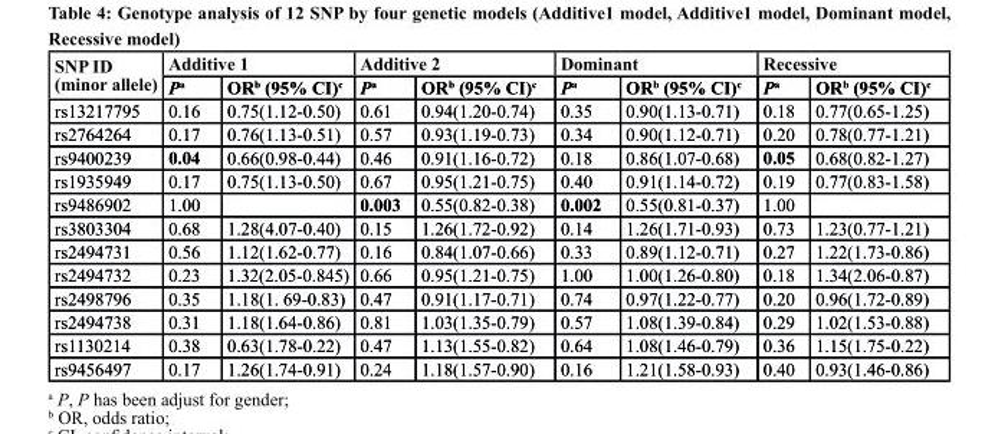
<table><thead><tr><td rowspan="2">sNP ID (minor allele)</td><td colspan="2">Additive 1</td><td colspan="2">Additive 2</td><td colspan="2">Dominant</td><td colspan="2">recessive</td></tr><tr><td>P<sup>a</sup></td><td>Or<sup>b</sup> (95% cI)<sup>c</sup></td><td>P<sup>a</sup></td><td>Or<sup>b</sup> (95% cI)<sup>c</sup></td><td>P<sup>a</sup></td><td>Or<sup>b</sup> (95% cI)<sup>c</sup></td><td>P<sup>a</sup></td><td>Or<sup>b</sup> (95% cI)<sup>c</sup></td></tr></thead><tbody><tr><td>rs13217795</td><td>0.16</td><td>0.75(1.12-0.50)</td><td>0.61</td><td>0.94(1.20-0.74)</td><td>0.35</td><td>0.90(1.13-0.71)</td><td>0.18</td><td>0.77(0.65-1.25)</td></tr><tr><td>rs2764264</td><td>0.17</td><td>0.76(1.13-0.51)</td><td>0.57</td><td>0.93(1.19-0.73)</td><td>0.34</td><td>0.90(1.12-0.71)</td><td>0.20</td><td>0.78(0.77-1.21)</td></tr><tr><td>rs9400239</td><td>0.04</td><td>0.66(0.98-0.44)</td><td>0.46</td><td>0.91(1.16-0.72)</td><td>0.18</td><td>0.86(1.07-0.68)</td><td>0.05</td><td>0.68(0.82-1.27)</td></tr><tr><td>rs1935949</td><td>0.17</td><td>0.75(1.13-0.50)</td><td>0.67</td><td>0.95(1.21-0.75)</td><td>0.40</td><td>0.91(1.14-0.72)</td><td>0.19</td><td>0.77(0.83-1.58)</td></tr><tr><td>rs9486902</td><td>1.00</td><td></td><td>0.003</td><td>0.55(0.82-0.38)</td><td>0.002</td><td>0.55(0.81-0.37)</td><td>1.00</td><td></td></tr><tr><td>rs3803304</td><td>0.68</td><td>1.28(4.07-0.40)</td><td>0.15</td><td>1.26(1.72-0.92)</td><td>0.14</td><td>1.26(1.71-0.93)</td><td>0.73</td><td>1.23(0.77-1.21)</td></tr><tr><td>rs2494731</td><td>0.56</td><td>1.12(1.62-0.77)</td><td>0.16</td><td>0.84(1.07-0.66)</td><td>0.33</td><td>0.89(1.12-0.71)</td><td>0.27</td><td>1.22(1.73-0.86)</td></tr><tr><td>rs2494732</td><td>0.23</td><td>1.32(2.05-0.845)</td><td>0.66</td><td>0.95(1.21-0.75)</td><td>1.00</td><td>1.00(1.26-0.80)</td><td>0.18</td><td>1.34(2.06-0.87)</td></tr><tr><td>rs2498796</td><td>0.35</td><td>1.18(1. 69-0.83)</td><td>0.47</td><td>0.91(1.17-0.71)</td><td>0.74</td><td>0.97(1.22-0.77)</td><td>0.20</td><td>0.96(1.72-0.89)</td></tr><tr><td>rs2494738</td><td>0.31</td><td>1.18(1.64-0.86)</td><td>0.81</td><td>1.03(1.35-0.79)</td><td>0.57</td><td>1.08(1.39-0.84)</td><td>0.29</td><td>1.02(1.53-0.88)</td></tr><tr><td>rs1130214</td><td>0.38</td><td>0.63(1.78-0.22)</td><td>0.47</td><td>1.13(1.55-0.82)</td><td>0.64</td><td>1.08(1.46-0.79)</td><td>0.36</td><td>1.15(1.75-0.22)</td></tr><tr><td>rs9456497</td><td>0.17</td><td>1.26(1.74-0.91)</td><td>0.24</td><td>1.18(1.57-0.90)</td><td>0.16</td><td>1.21(1.58-0.93)</td><td>0.40</td><td>0.93(1.46-0.86)</td></tr></tbody></table>